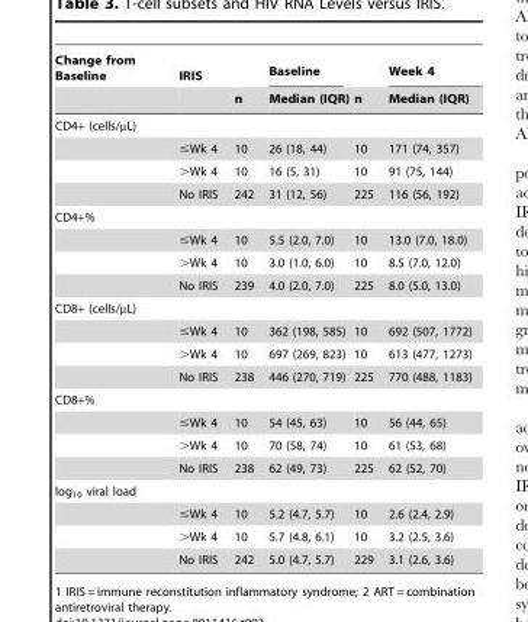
<table><thead><tr><td rowspan="2">Change from Baseline</td><td rowspan="2">IRIS</td><td rowspan="2">n</td><td rowspan="2">Baseline Median (IQR)</td><td rowspan="2">n</td><td rowspan="2">Week 4 Median (IQR)</td></tr><tr></tr></thead><tbody><tr><td colspan="6">CD4+ (cells/µL)</td></tr><tr><td></td><td>≤Wk 4</td><td>10</td><td>26 (18, 44)</td><td>10</td><td>171 (74, 357)</td></tr><tr><td></td><td>&gt;Wk 4</td><td>10</td><td>16 (5, 31)</td><td>10</td><td>91 (75, 144)</td></tr><tr><td></td><td>No IRIS</td><td>242</td><td>31 (12, 56)</td><td>225</td><td>116 (56, 192)</td></tr><tr><td colspan="6">CD4+%</td></tr><tr><td></td><td>≤Wk 4</td><td>10</td><td>5.5 (2.0, 7.0)</td><td>10</td><td>13.0 (7.0, 18.0)</td></tr><tr><td></td><td>&gt;Wk 4</td><td>10</td><td>3.0 (1.0, 6.0)</td><td>10</td><td>8.5 (7.0, 12.0)</td></tr><tr><td></td><td>No IRIS</td><td>239</td><td>4.0 (2.0, 7.0)</td><td>225</td><td>8.0 (5.0, 13.0)</td></tr><tr><td colspan="6">CD8+ (cells/µL)</td></tr><tr><td></td><td>≤Wk 4</td><td>10</td><td>362 (198, 585)</td><td>10</td><td>692 (507, 1772)</td></tr><tr><td></td><td>&gt;Wk 4</td><td>10</td><td>697 (269, 823)</td><td>10</td><td>613 (477, 1273)</td></tr><tr><td></td><td>No IRIS</td><td>238</td><td>446 (270, 719)</td><td>225</td><td>770 (488, 1183)</td></tr><tr><td colspan="6">CD8+%</td></tr><tr><td></td><td>≤Wk 4</td><td>10</td><td>54 (45, 63)</td><td>10</td><td>56 (44, 65)</td></tr><tr><td></td><td>&gt;Wk 4</td><td>10</td><td>70 (58, 74)</td><td>10</td><td>61 (53, 68)</td></tr><tr><td></td><td>No IRIS</td><td>238</td><td>62 (49, 73)</td><td>225</td><td>62 (52, 70)</td></tr><tr><td colspan="6">log<sub>10</sub> viral load</td></tr><tr><td></td><td>≤Wk 4</td><td>10</td><td>5.2 (4.7, 5.7)</td><td>10</td><td>2.6 (2.4, 2.9)</td></tr><tr><td></td><td>&gt;Wk 4</td><td>10</td><td>5.7 (4.8, 6.1)</td><td>10</td><td>3.2 (2.5, 3.6)</td></tr><tr><td></td><td>No IRIS</td><td>242</td><td>5.0 (4.7, 5.7)</td><td>229</td><td>3.1 (2.6, 3.6)</td></tr></tbody></table>